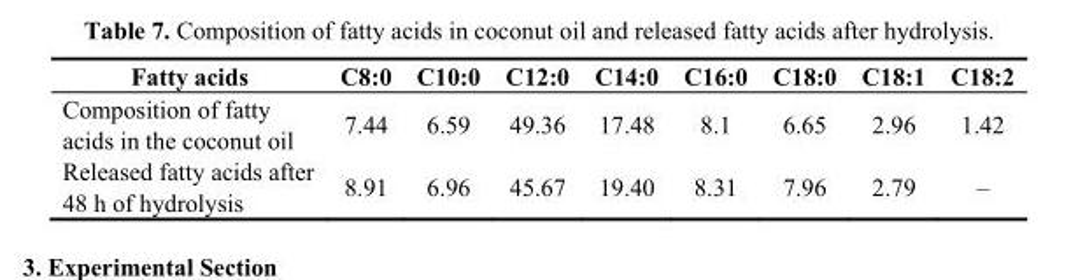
<table><thead><tr><td>Fatty acids</td><td>C8:0</td><td>C10:0</td><td>C12:0</td><td>C14:0</td><td>C16:0</td><td>C18:0</td><td>C18:1</td><td>C18:2</td></tr></thead><tbody><tr><td>Composition of fatty acids in the coconut oil</td><td>7.44</td><td>6.59</td><td>49.36</td><td>17.48</td><td>8.1</td><td>6.65</td><td>2.96</td><td>1.42</td></tr><tr><td>Released fatty acids after 48 h of hydrolysis</td><td>8.91</td><td>6.96</td><td>45.67</td><td>19.40</td><td>8.31</td><td>7.96</td><td>2.79</td><td>–</td></tr></tbody></table>